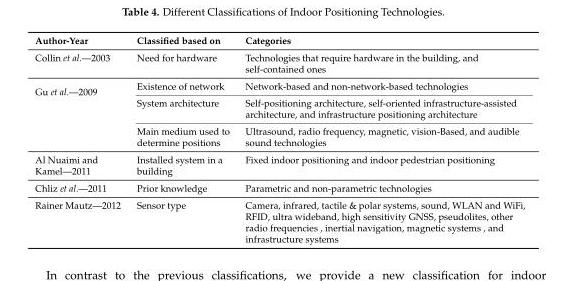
<table><thead><tr><td>Author-Year</td><td>Classified based on</td><td>Categories</td></tr></thead><tbody><tr><td>Collin et al.—2003</td><td>Need for hardware</td><td>Technologies that require hardware in the building, and self-contained ones</td></tr><tr><td rowspan="3">Gu et al.—2009</td><td>Existence of network</td><td>Network-based and non-network-based technologies</td></tr><tr><td>System architecture</td><td>Self-positioning architecture, self-oriented infrastructure-assisted architecture, and infrastructure positioning architecture</td></tr><tr><td>Main medium used to determine positions</td><td>Ultrasound, radio frequency, magnetic, vision-Based, and audible sound technologies</td></tr><tr><td>Al Nuaimi and Kamel—2011</td><td>Installed system in a building</td><td>Fixed indoor positioning and indoor pedestrian positioning</td></tr><tr><td>Chliz et al.—2011</td><td>Prior knowledge</td><td>Parametric and non-parametric technologies</td></tr><tr><td>Rainer Mautz—2012</td><td>Sensor type</td><td>Camera, infrared, tactile &amp; polar systems, sound, WLAN and WiFi, RFID, ultra wideband, high sensitivity GNSS, pseudolites, other radio frequencies , inertial navigation, magnetic systems , and infrastructure systems</td></tr></tbody></table>